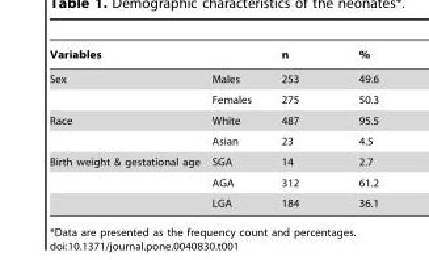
<table><thead><tr><td colspan="2">Variables</td><td rowspan="2">n 253</td><td rowspan="2">% 49.6</td></tr><tr><td>Sex</td><td>Males</td></tr></thead><tbody><tr><td></td><td>Females</td><td>275</td><td>50.3</td></tr><tr><td rowspan="2">Race</td><td>White</td><td>487</td><td>95.5</td></tr><tr><td>Asian</td><td>23</td><td>4.5</td></tr><tr><td rowspan="3">Birth weight &amp; gestational age</td><td>SGA</td><td>14</td><td>2.7</td></tr><tr><td>AGA</td><td>312</td><td>61.2</td></tr><tr><td>LGA</td><td>184</td><td>36.1</td></tr></tbody></table>